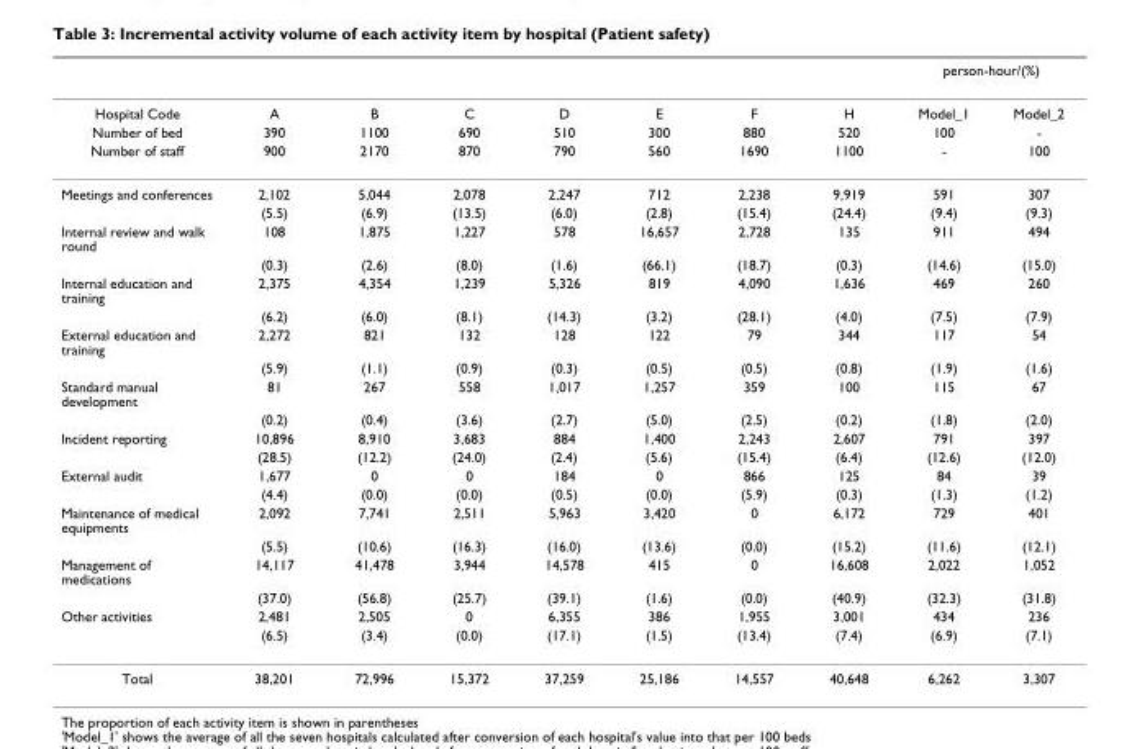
<table><thead><tr><td rowspan="2">Hospital Code</td><td rowspan="2">A</td><td rowspan="2">B</td><td rowspan="2">C</td><td rowspan="2">D</td><td rowspan="2">E</td><td rowspan="2">F</td><td rowspan="2">H</td><td colspan="2">person-hour/(%)</td></tr><tr><td>Model_1</td><td>Model_2</td></tr></thead><tbody><tr><td>Number of bed</td><td>390</td><td>1100</td><td>690</td><td>510</td><td>300</td><td>880</td><td>520</td><td>100</td><td>-</td></tr><tr><td>Number of staff</td><td>900</td><td>2170</td><td>870</td><td>790</td><td>560</td><td>1690</td><td>1100</td><td>-</td><td>100</td></tr><tr><td rowspan="2">Meetings and conferences</td><td>2,102</td><td>5,044</td><td>2,078</td><td>2,247</td><td>712</td><td>2,238</td><td>9,919</td><td>591</td><td>307</td></tr><tr><td>(5.5)</td><td>(6.9)</td><td>(13.5)</td><td>(6.0)</td><td>(2.8)</td><td>(15.4)</td><td>(24.4)</td><td>(9.4)</td><td>(9.3)</td></tr><tr><td rowspan="2">Internal review and walk round</td><td>108</td><td>1,875</td><td>1,227</td><td>578</td><td>16,657</td><td>2,728</td><td>135</td><td>911</td><td>494</td></tr><tr><td>(0.3)</td><td>(2.6)</td><td>(8.0)</td><td>(1.6)</td><td>(66.1)</td><td>(18.7)</td><td>(0.3)</td><td>(14.6)</td><td>(15.0)</td></tr><tr><td rowspan="2">Internal education and training</td><td>2,375</td><td>4,354</td><td>1,239</td><td>5,326</td><td>819</td><td>4,090</td><td>1,636</td><td>469</td><td>260</td></tr><tr><td>(6.2)</td><td>(6.0)</td><td>(8.1)</td><td>(14.3)</td><td>(3.2)</td><td>(28.1)</td><td>(4.0)</td><td>(7.5)</td><td>(7.9)</td></tr><tr><td rowspan="2">External education and training</td><td>2,272</td><td>821</td><td>132</td><td>128</td><td>122</td><td>79</td><td>344</td><td>117</td><td>54</td></tr><tr><td>(5.9)</td><td>(1.1)</td><td>(0.9)</td><td>(0.3)</td><td>(0.5)</td><td>(0.5)</td><td>(0.8)</td><td>(1.9)</td><td>(1.6)</td></tr><tr><td rowspan="2">Standard manual development</td><td>81</td><td>267</td><td>558</td><td>1,017</td><td>1,257</td><td>359</td><td>100</td><td>115</td><td>67</td></tr><tr><td>(0.2)</td><td>(0.4)</td><td>(3.6)</td><td>(2.7)</td><td>(5.0)</td><td>(2.5)</td><td>(0.2)</td><td>(1.8)</td><td>(2.0)</td></tr><tr><td rowspan="2">Incident reporting</td><td>10,896</td><td>8,910</td><td>3,683</td><td>884</td><td>1,400</td><td>2,243</td><td>2,607</td><td>791</td><td>397</td></tr><tr><td>(28.5)</td><td>(12.2)</td><td>(24.0)</td><td>(2.4)</td><td>(5.6)</td><td>(15.4)</td><td>(6.4)</td><td>(12.6)</td><td>(12.0)</td></tr><tr><td rowspan="2">External audit</td><td>1,677</td><td>0</td><td>0</td><td>184</td><td>0</td><td>866</td><td>125</td><td>84</td><td>39</td></tr><tr><td>(4.4)</td><td>(0.0)</td><td>(0.0)</td><td>(0.5)</td><td>(0.0)</td><td>(5.9)</td><td>(0.3)</td><td>(1.3)</td><td>(1.2)</td></tr><tr><td rowspan="2">Maintenance of medical equipments</td><td>2,092</td><td>7,741</td><td>2,511</td><td>5,963</td><td>3,420</td><td>0</td><td>6,172</td><td>729</td><td>401</td></tr><tr><td>(5.5)</td><td>(10.6)</td><td>(16.3)</td><td>(16.0)</td><td>(13.6)</td><td>(0.0)</td><td>(15.2)</td><td>(11.6)</td><td>(12.1)</td></tr><tr><td rowspan="2">Management of medications</td><td>14,117</td><td>41,478</td><td>3,944</td><td>14,578</td><td>415</td><td>0</td><td>16,608</td><td>2,022</td><td>1,052</td></tr><tr><td>(37.0)</td><td>(56.8)</td><td>(25.7)</td><td>(39.1)</td><td>(1.6)</td><td>(0.0)</td><td>(40.9)</td><td>(32.3)</td><td>(31.8)</td></tr><tr><td rowspan="2">Other activities</td><td>2,481</td><td>2,505</td><td>0</td><td>6,355</td><td>386</td><td>1,955</td><td>3,001</td><td>434</td><td>236</td></tr><tr><td>(6.5)</td><td>(3.4)</td><td>(0.0)</td><td>(17.1)</td><td>(1.5)</td><td>(13.4)</td><td>(7.4)</td><td>(6.9)</td><td>(7.1)</td></tr><tr><td>Total</td><td>38,201</td><td>72,996</td><td>15,372</td><td>37,259</td><td>25,186</td><td>14,557</td><td>40,648</td><td>6,262</td><td>3,307</td></tr></tbody></table>